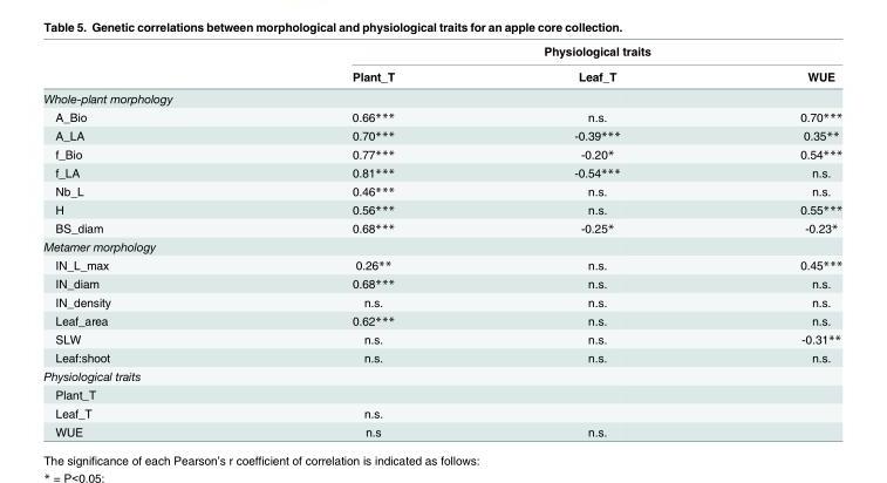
<table><thead><tr><td rowspan="2"></td><td colspan="3">Physiological traits</td></tr><tr><td>Plant_T</td><td>Leaf_T</td><td>WUE</td></tr></thead><tbody><tr><td colspan="4">Whole-plant morphology</td></tr><tr><td>A_Bio</td><td>0.66***</td><td>n.s.</td><td>0.70***</td></tr><tr><td>A_LA</td><td>0.70***</td><td>-0.39***</td><td>0.35**</td></tr><tr><td>f_Bio</td><td>0.77***</td><td>-0.20*</td><td>0.54***</td></tr><tr><td>f_LA</td><td>0.81***</td><td>-0.54***</td><td>n.s.</td></tr><tr><td>Nb_L</td><td>0.46***</td><td>n.s.</td><td>n.s.</td></tr><tr><td>H</td><td>0.56***</td><td>n.s.</td><td>0.55***</td></tr><tr><td>BS_diam</td><td>0.68***</td><td>-0.25*</td><td>-0.23*</td></tr><tr><td colspan="4">Metamer morphology</td></tr><tr><td>IN_L_max</td><td>0.26**</td><td>n.s.</td><td>0.45***</td></tr><tr><td>IN_diam</td><td>0.68***</td><td>n.s.</td><td>n.s.</td></tr><tr><td>IN_density</td><td>n.s.</td><td>n.s.</td><td>n.s.</td></tr><tr><td>Leaf_area</td><td>0.62***</td><td>n.s.</td><td>n.s.</td></tr><tr><td>SLW</td><td>n.s.</td><td>n.s.</td><td>-0.31**</td></tr><tr><td>Leaf:shoot</td><td>n.s.</td><td>n.s.</td><td>n.s.</td></tr><tr><td colspan="4">Physiological traits</td></tr><tr><td colspan="4">Plant_T</td></tr><tr><td>Leaf_T</td><td>n.s.</td><td></td><td></td></tr><tr><td>WUE</td><td>n.s</td><td>n.s.</td><td></td></tr></tbody></table>